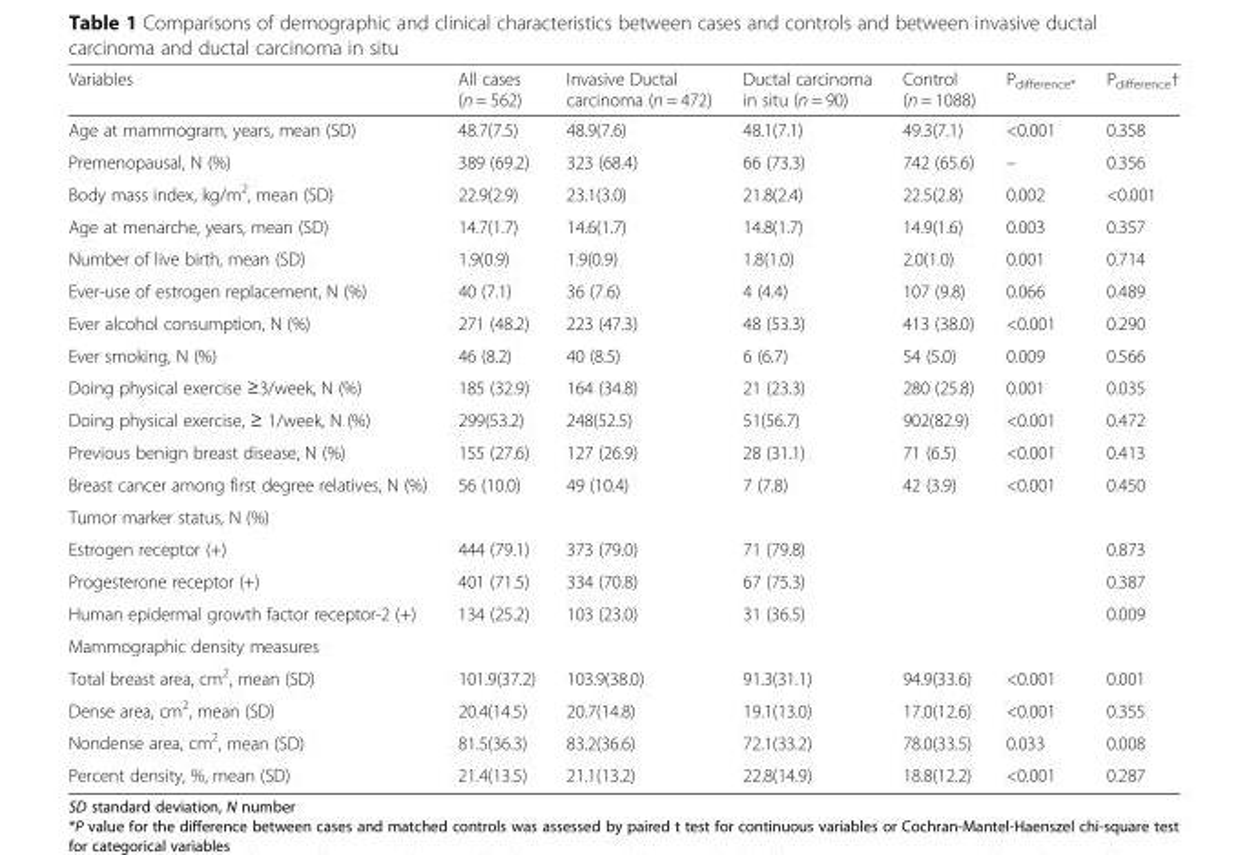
<table><thead><tr><td>Variables</td><td>All cases (n = 562)</td><td>Invasive Ductal carcinoma (n = 472)</td><td>Ductal carcinoma in situ (n = 90)</td><td>Control (n = 1088)</td><td>P<sub>difference*</sub></td><td>P<sub>difference</sub>†</td></tr></thead><tbody><tr><td>Age at mammogram, years, mean (SD)</td><td>48.7(7.5)</td><td>48.9(7.6)</td><td>48.1(7.1)</td><td>49.3(7.1)</td><td>&lt;0.001</td><td>0.358</td></tr><tr><td>Premenopausal, N (%)</td><td>389 (69.2)</td><td>323 (68.4)</td><td>66 (73.3)</td><td>742 (65.6)</td><td>–</td><td>0.356</td></tr><tr><td>Body mass index, kg/m<sup>2</sup>, mean (SD)</td><td>22.9(2.9)</td><td>23.1(3.0)</td><td>21.8(2.4)</td><td>22.5(2.8)</td><td>0.002</td><td>&lt;0.001</td></tr><tr><td>Age at menarche, years, mean (SD)</td><td>14.7(1.7)</td><td>14.6(1.7)</td><td>14.8(1.7)</td><td>14.9(1.6)</td><td>0.003</td><td>0.357</td></tr><tr><td>Number of live birth, mean (SD)</td><td>1.9(0.9)</td><td>1.9(0.9)</td><td>1.8(1.0)</td><td>2.0(1.0)</td><td>0.001</td><td>0.714</td></tr><tr><td>Ever-use of estrogen replacement, N (%)</td><td>40 (7.1)</td><td>36 (7.6)</td><td>4 (4.4)</td><td>107 (9.8)</td><td>0.066</td><td>0.489</td></tr><tr><td>Ever alcohol consumption, N (%)</td><td>271 (48.2)</td><td>223 (47.3)</td><td>48 (53.3)</td><td>413 (38.0)</td><td>&lt;0.001</td><td>0.290</td></tr><tr><td>Ever smoking, N (%)</td><td>46 (8.2)</td><td>40 (8.5)</td><td>6 (6.7)</td><td>54 (5.0)</td><td>0.009</td><td>0.566</td></tr><tr><td>Doing physical exercise ≥3/week, N (%)</td><td>185 (32.9)</td><td>164 (34.8)</td><td>21 (23.3)</td><td>280 (25.8)</td><td>0.001</td><td>0.035</td></tr><tr><td>Doing physical exercise, ≥ 1/week, N (%)</td><td>299(53.2)</td><td>248(52.5)</td><td>51(56.7)</td><td>902(82.9)</td><td>&lt;0.001</td><td>0.472</td></tr><tr><td>Previous benign breast disease, N (%)</td><td>155 (27.6)</td><td>127 (26.9)</td><td>28 (31.1)</td><td>71 (6.5)</td><td>&lt;0.001</td><td>0.413</td></tr><tr><td>Breast cancer among first degree relatives, N (%)</td><td>56 (10.0)</td><td>49 (10.4)</td><td>7 (7.8)</td><td>42 (3.9)</td><td>&lt;0.001</td><td>0.450</td></tr><tr><td colspan="7">Tumor marker status, N (%)</td></tr><tr><td>Estrogen receptor (+)</td><td>444 (79.1)</td><td>373 (79.0)</td><td>71 (79.8)</td><td></td><td></td><td>0.873</td></tr><tr><td>Progesterone receptor (+)</td><td>401 (71.5)</td><td>334 (70.8)</td><td>67 (75.3)</td><td></td><td></td><td>0.387</td></tr><tr><td>Human epidermal growth factor receptor-2 (+)</td><td>134 (25.2)</td><td>103 (23.0)</td><td>31 (36.5)</td><td></td><td></td><td>0.009</td></tr><tr><td colspan="7">Mammographic density measures</td></tr><tr><td>Total breast area, cm<sup>2</sup>, mean (SD)</td><td>101.9(37.2)</td><td>103.9(38.0)</td><td>91.3(31.1)</td><td>94.9(33.6)</td><td>&lt;0.001</td><td>0.001</td></tr><tr><td>Dense area, cm<sup>2</sup>, mean (SD)</td><td>20.4(14.5)</td><td>20.7(14.8)</td><td>19.1(13.0)</td><td>17.0(12.6)</td><td>&lt;0.001</td><td>0.355</td></tr><tr><td>Nondense area, cm<sup>2</sup>, mean (SD)</td><td>81.5(36.3)</td><td>83.2(36.6)</td><td>72.1(33.2)</td><td>78.0(33.5)</td><td>0.033</td><td>0.008</td></tr><tr><td>Percent density, %, mean (SD)</td><td>21.4(13.5)</td><td>21.1(13.2)</td><td>22.8(14.9)</td><td>18.8(12.2)</td><td>&lt;0.001</td><td>0.287</td></tr></tbody></table>